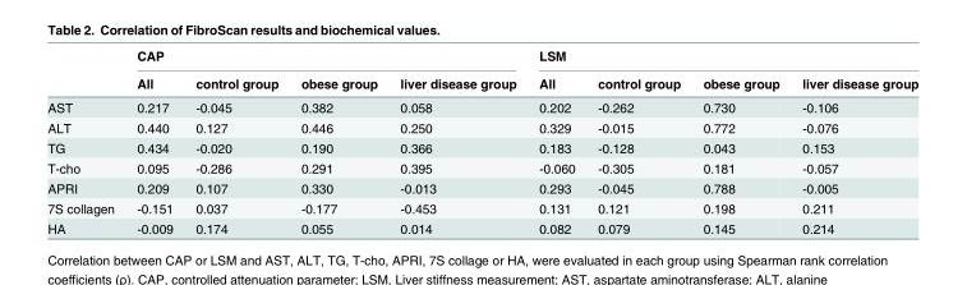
<table><thead><tr><td rowspan="2"></td><td colspan="4">CAP</td><td colspan="4">LSM</td></tr><tr><td>All</td><td>control group</td><td>obese group</td><td>liver disease group</td><td>All</td><td>control group</td><td>obese group</td><td>liver disease group</td></tr></thead><tbody><tr><td>AST</td><td>0.217</td><td>-0.045</td><td>0.382</td><td>0.058</td><td>0.202</td><td>-0.262</td><td>0.730</td><td>-0.106</td></tr><tr><td>ALT</td><td>0.440</td><td>0.127</td><td>0.446</td><td>0.250</td><td>0.329</td><td>-0.015</td><td>0.772</td><td>-0.076</td></tr><tr><td>TG</td><td>0.434</td><td>-0.020</td><td>0.190</td><td>0.366</td><td>0.183</td><td>-0.128</td><td>0.043</td><td>0.153</td></tr><tr><td>T-cho</td><td>0.095</td><td>-0.286</td><td>0.291</td><td>0.395</td><td>-0.060</td><td>-0.305</td><td>0.181</td><td>-0.057</td></tr><tr><td>APRI</td><td>0.209</td><td>0.107</td><td>0.330</td><td>-0.013</td><td>0.293</td><td>-0.045</td><td>0.788</td><td>-0.005</td></tr><tr><td>7S collagen</td><td>-0.151</td><td>0.037</td><td>-0.177</td><td>-0.453</td><td>0.131</td><td>0.121</td><td>0.198</td><td>0.211</td></tr><tr><td>HA</td><td>-0.009</td><td>0.174</td><td>0.055</td><td>0.014</td><td>0.082</td><td>0.079</td><td>0.145</td><td>0.214</td></tr></tbody></table>